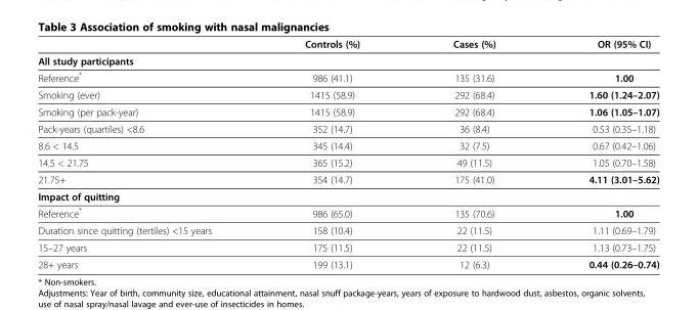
<table><thead><tr><td></td><td>Controls (%)</td><td>Cases (%)</td><td>OR (95% CI)</td></tr></thead><tbody><tr><td colspan="4">All study participants</td></tr><tr><td>Reference*</td><td>986 (41.1)</td><td>135 (31.6)</td><td>1.00</td></tr><tr><td>Smoking (ever)</td><td>1415 (58.9)</td><td>292 (68.4)</td><td>1.60 (1.24–2.07)</td></tr><tr><td>Smoking (per pack-year)</td><td>1415 (58.9)</td><td>292 (68.4)</td><td>1.06 (1.05–1.07)</td></tr><tr><td>Pack-years (quartiles) &lt;8.6</td><td>352 (14.7)</td><td>36 (8.4)</td><td>0.53 (0.35–1.18)</td></tr><tr><td>8.6 &lt; 14.5</td><td>345 (14.4)</td><td>32 (7.5)</td><td>0.67 (0.42–1.06)</td></tr><tr><td>14.5 &lt; 21.75</td><td>365 (15.2)</td><td>49 (11.5)</td><td>1.05 (0.70–1.58)</td></tr><tr><td>21.75+</td><td>354 (14.7)</td><td>175 (41.0)</td><td>4.11 (3.01–5.62)</td></tr><tr><td colspan="4">Impact of quitting</td></tr><tr><td>Reference*</td><td>986 (65.0)</td><td>135 (70.6)</td><td>1.00</td></tr><tr><td>Duration since quitting (tertiles) &lt;15 years</td><td>158 (10.4)</td><td>22 (11.5)</td><td>1.11 (0.69–1.79)</td></tr><tr><td>15–27 years</td><td>175 (11.5)</td><td>22 (11.5)</td><td>1.13 (0.73–1.75)</td></tr><tr><td>28+ years</td><td>199 (13.1)</td><td>12 (6.3)</td><td>0.44 (0.26–0.74)</td></tr></tbody></table>